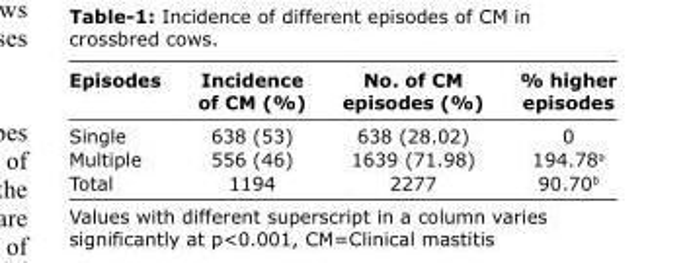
<table><thead><tr><td>Episodes</td><td>Incidence of CM (%)</td><td>No. of CM episodes (%)</td><td>% higher episodes</td></tr></thead><tbody><tr><td>Single</td><td>638 (53)</td><td>638 (28.02)</td><td>0</td></tr><tr><td>Multiple</td><td>556 (46)</td><td>1639 (71.98)</td><td>194.78<sup>a</sup></td></tr><tr><td>Total</td><td>1194</td><td>2277</td><td>90.70<sup>b</sup></td></tr></tbody></table>